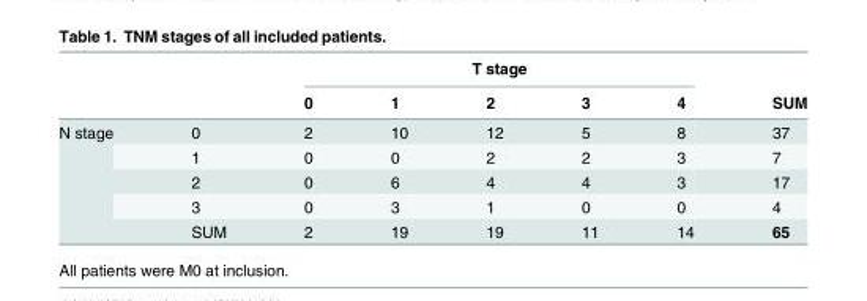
<table><thead><tr><td rowspan="2"></td><td rowspan="2"></td><td colspan="5">T stage</td><td rowspan="2">SUM</td></tr><tr><td>0</td><td>1</td><td>2</td><td>3</td><td>4</td></tr></thead><tbody><tr><td rowspan="5">N stage</td><td>0</td><td>2</td><td>10</td><td>12</td><td>5</td><td>8</td><td>37</td></tr><tr><td>1</td><td>0</td><td>0</td><td>2</td><td>2</td><td>3</td><td>7</td></tr><tr><td>2</td><td>0</td><td>6</td><td>4</td><td>4</td><td>3</td><td>17</td></tr><tr><td>3</td><td>0</td><td>3</td><td>1</td><td>0</td><td>0</td><td>4</td></tr><tr><td>SUM</td><td>2</td><td>19</td><td>19</td><td>11</td><td>14</td><td>65</td></tr></tbody></table>